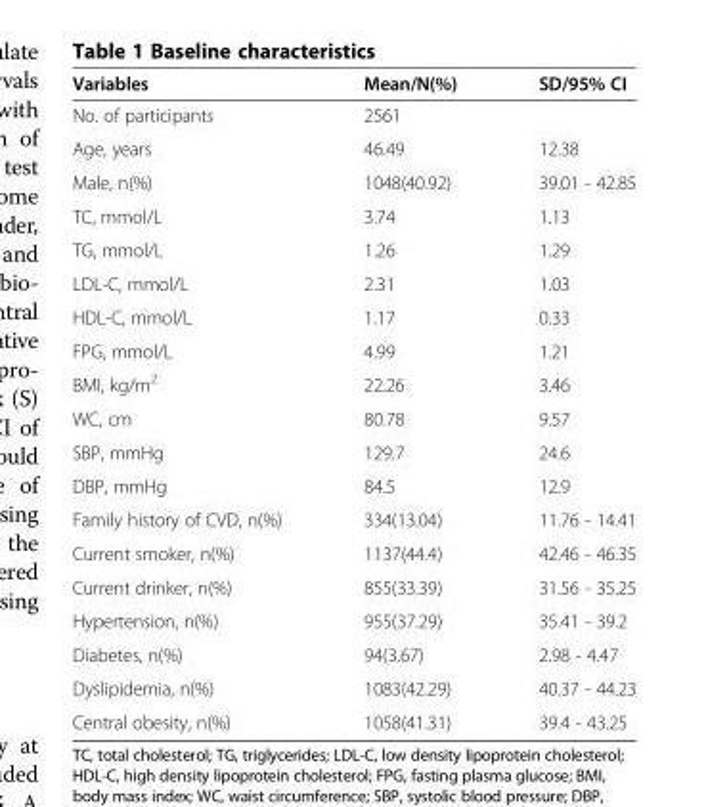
<table><thead><tr><td>Variables</td><td>Mean/N(%)</td><td>SD/95% CI</td></tr></thead><tbody><tr><td>No. of participants</td><td>2561</td><td></td></tr><tr><td>Age, years</td><td>46.49</td><td>12.38</td></tr><tr><td>Male, n(%)</td><td>1048(40.92)</td><td>39.01 - 42.85</td></tr><tr><td>TC, mmol/L</td><td>3.74</td><td>1.13</td></tr><tr><td>TG, mmol/L</td><td>1.26</td><td>1.29</td></tr><tr><td>LDL-C, mmol/L</td><td>2.31</td><td>1.03</td></tr><tr><td>HDL-C, mmol/L</td><td>1.17</td><td>0.33</td></tr><tr><td>FPG, mmol/L</td><td>4.99</td><td>1.21</td></tr><tr><td>BMI, kg/m<sup>2</sup></td><td>22.26</td><td>3.46</td></tr><tr><td>WC, cm</td><td>80.78</td><td>9.57</td></tr><tr><td>SBP, mmHg</td><td>129.7</td><td>24.6</td></tr><tr><td>DBP, mmHg</td><td>84.5</td><td>12.9</td></tr><tr><td>Family history of CVD, n(%)</td><td>334(13.04)</td><td>11.76 - 14.41</td></tr><tr><td>Current smoker, n(%)</td><td>1137(44.4)</td><td>42.46 - 46.35</td></tr><tr><td>Current drinker, n(%)</td><td>855(33.39)</td><td>31.56 - 35.25</td></tr><tr><td>Hypertension, n(%)</td><td>955(37.29)</td><td>35.41 - 39.2</td></tr><tr><td>Diabetes, n(%)</td><td>94(3.67)</td><td>2.98 - 4.47</td></tr><tr><td>Dyslipidemia, n(%)</td><td>1083(42.29)</td><td>40.37 - 44.23</td></tr><tr><td>Central obesity, n(%)</td><td>1058(41.31)</td><td>39.4 - 43.25</td></tr></tbody></table>